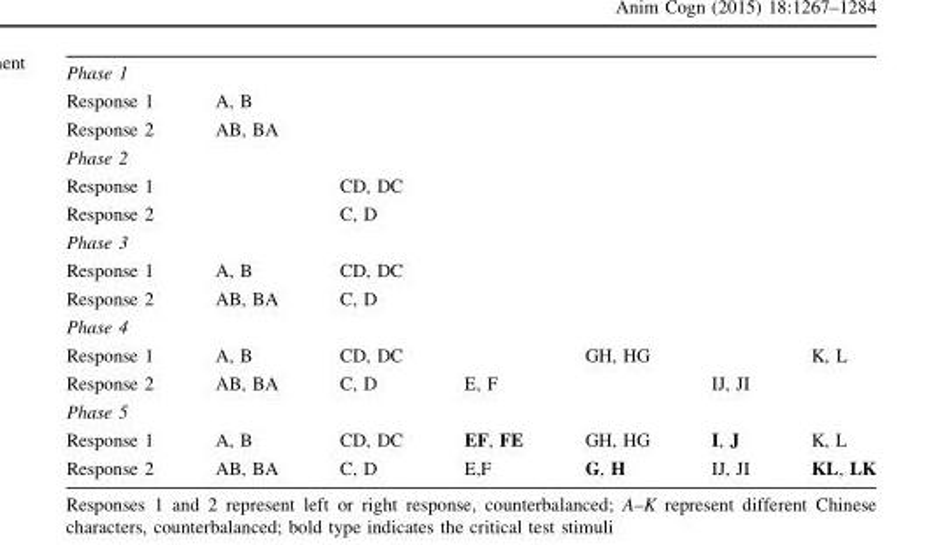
<table><tbody><tr><td colspan="7">Phase 1</td></tr><tr><td>Response 1</td><td>A, B</td><td></td><td></td><td></td><td></td><td></td></tr><tr><td>Response 2</td><td>AB, BA</td><td></td><td></td><td></td><td></td><td></td></tr><tr><td colspan="7">Phase 2</td></tr><tr><td>Response 1</td><td></td><td>CD, DC</td><td></td><td></td><td></td><td></td></tr><tr><td>Response 2</td><td></td><td>C, D</td><td></td><td></td><td></td><td></td></tr><tr><td colspan="7">Phase 3</td></tr><tr><td>Response 1</td><td>A, B</td><td>CD, DC</td><td></td><td></td><td></td><td></td></tr><tr><td>Response 2</td><td>AB, BA</td><td>C, D</td><td></td><td></td><td></td><td></td></tr><tr><td colspan="7">Phase 4</td></tr><tr><td>Response 1</td><td>A, B</td><td>CD, DC</td><td></td><td>GH, HG</td><td></td><td>K, L</td></tr><tr><td>Response 2</td><td>AB, BA</td><td>C, D</td><td>E, F</td><td></td><td>IJ, JI</td><td></td></tr><tr><td colspan="7">Phase 5</td></tr><tr><td>Response 1</td><td>A, B</td><td>CD, DC</td><td>EF, FE</td><td>GH, HG</td><td>I, J</td><td>K, L</td></tr><tr><td>Response 2</td><td>AB, BA</td><td>C, D</td><td>E,F</td><td>G, H</td><td>IJ, JI</td><td>KL, LK</td></tr></tbody></table>